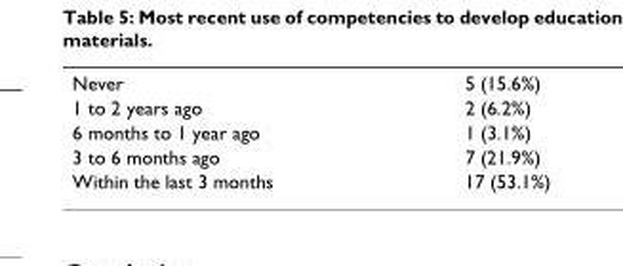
<table><tbody><tr><td>Never</td><td>5 (15.6%)</td></tr><tr><td>1 to 2 years ago</td><td>2 (6.2%)</td></tr><tr><td>6 months to 1 year ago</td><td>1 (3.1%)</td></tr><tr><td>3 to 6 months ago</td><td>7 (21.9%)</td></tr><tr><td>Within the last 3 months</td><td>17 (53.1%)</td></tr></tbody></table>